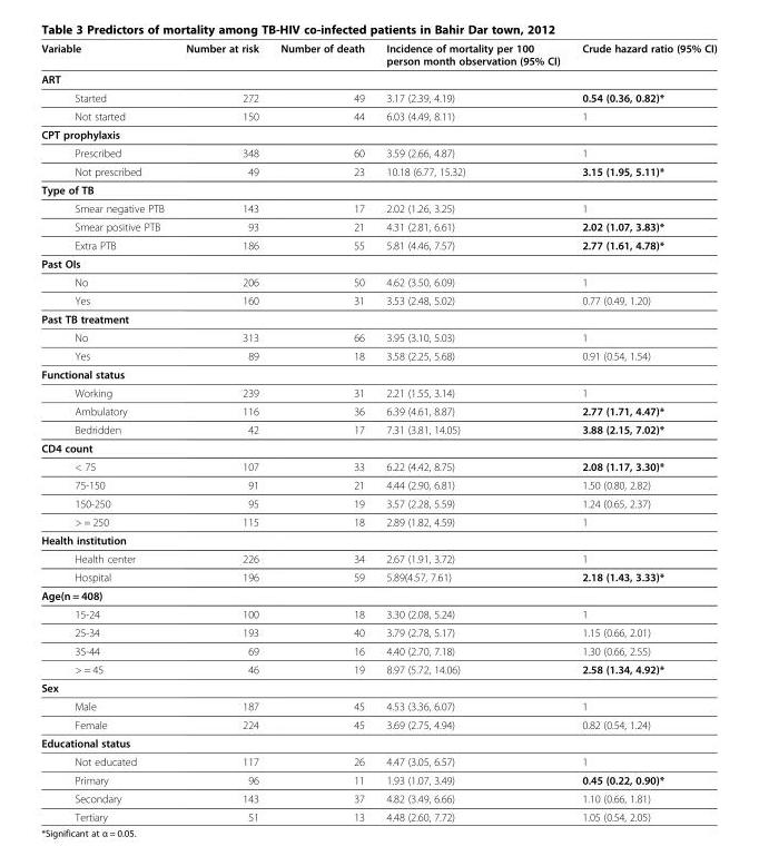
<table><thead><tr><td>Variable</td><td>Number at risk</td><td>Number of death</td><td>Incidence of mortality per 100 person month observation (95% CI)</td><td>Crude hazard ratio (95% CI)</td></tr></thead><tbody><tr><td colspan="5">ART</td></tr><tr><td>Started</td><td>272</td><td>49</td><td>3.17 (2.39, 4.19)</td><td>0.54 (0.36, 0.82)*</td></tr><tr><td>Not started</td><td>150</td><td>44</td><td>6.03 (4.49, 8.11)</td><td>1</td></tr><tr><td colspan="5">CPT prophylaxis</td></tr><tr><td>Prescribed</td><td>348</td><td>60</td><td>3.59 (2.66, 4.87)</td><td>1</td></tr><tr><td>Not prescribed</td><td>49</td><td>23</td><td>10.18 (6.77, 15.32)</td><td>3.15 (1.95, 5.11)*</td></tr><tr><td colspan="5">Type of TB</td></tr><tr><td>Smear negative PTB</td><td>143</td><td>17</td><td>2.02 (1.26, 3.25)</td><td>1</td></tr><tr><td>Smear positive PTB</td><td>93</td><td>21</td><td>4.31 (2.81, 6.61)</td><td>2.02 (1.07, 3.83)*</td></tr><tr><td>Extra PTB</td><td>186</td><td>55</td><td>5.81 (4.46, 7.57)</td><td>2.77 (1.61, 4.78)*</td></tr><tr><td colspan="5">Past OIs</td></tr><tr><td>No</td><td>206</td><td>50</td><td>4.62 (3.50, 6.09)</td><td>1</td></tr><tr><td>Yes</td><td>160</td><td>31</td><td>3.53 (2.48, 5.02)</td><td>0.77 (0.49, 1.20)</td></tr><tr><td colspan="5">Past TB treatment</td></tr><tr><td>No</td><td>313</td><td>66</td><td>3.95 (3.10, 5.03)</td><td>1</td></tr><tr><td>Yes</td><td>89</td><td>18</td><td>3.58 (2.25, 5.68)</td><td>0.91 (0.54, 1.54)</td></tr><tr><td colspan="5">Functional status</td></tr><tr><td>Working</td><td>239</td><td>31</td><td>2.21 (1.55, 3.14)</td><td>1</td></tr><tr><td>Ambulatory</td><td>116</td><td>36</td><td>6.39 (4.61, 8.87)</td><td>2.77 (1.71, 4.47)*</td></tr><tr><td>Bedridden</td><td>42</td><td>17</td><td>7.31 (3.81, 14.05)</td><td>3.88 (2.15, 7.02)*</td></tr><tr><td colspan="5">CD4 count</td></tr><tr><td>&lt; 75</td><td>107</td><td>33</td><td>6.22 (4.42, 8.75)</td><td>2.08 (1.17, 3.30)*</td></tr><tr><td>75-150</td><td>91</td><td>21</td><td>4.44 (2.90, 6.81)</td><td>1.50 (0.80, 2.82)</td></tr><tr><td>150-250</td><td>95</td><td>19</td><td>3.57 (2.28, 5.59)</td><td>1.24 (0.65, 2.37)</td></tr><tr><td>&gt; = 250</td><td>115</td><td>18</td><td>2.89 (1.82, 4.59)</td><td>1</td></tr><tr><td colspan="5">Health institution</td></tr><tr><td>Health center</td><td>226</td><td>34</td><td>2.67 (1.91, 3.72)</td><td>1</td></tr><tr><td>Hospital</td><td>196</td><td>59</td><td>5.89(4.57, 7.61)</td><td>2.18 (1.43, 3.33)*</td></tr><tr><td colspan="5">Age(n = 408)</td></tr><tr><td>15-24</td><td>100</td><td>18</td><td>3.30 (2.08, 5.24)</td><td>1</td></tr><tr><td>25-34</td><td>193</td><td>40</td><td>3.79 (2.78, 5.17)</td><td>1.15 (0.66, 2.01)</td></tr><tr><td>35-44</td><td>69</td><td>16</td><td>4.40 (2.70, 7.18)</td><td>1.30 (0.66, 2.55)</td></tr><tr><td>&gt; = 45</td><td>46</td><td>19</td><td>8.97 (5.72, 14.06)</td><td>2.58 (1.34, 4.92)*</td></tr><tr><td colspan="5">Sex</td></tr><tr><td>Male</td><td>187</td><td>45</td><td>4.53 (3.36, 6.07)</td><td>1</td></tr><tr><td>Female</td><td>224</td><td>45</td><td>3.69 (2.75, 4.94)</td><td>0.82 (0.54, 1.24)</td></tr><tr><td colspan="5">Educational status</td></tr><tr><td>Not educated</td><td>117</td><td>26</td><td>4.47 (3.05, 6.57)</td><td>1</td></tr><tr><td>Primary</td><td>96</td><td>11</td><td>1.93 (1.07, 3.49)</td><td>0.45 (0.22, 0.90)*</td></tr><tr><td>Secondary</td><td>143</td><td>37</td><td>4.82 (3.49, 6.66)</td><td>1.10 (0.66, 1.81)</td></tr><tr><td>Tertiary</td><td>51</td><td>13</td><td>4.48 (2.60, 7.72)</td><td>1.05 (0.54, 2.05)</td></tr></tbody></table>